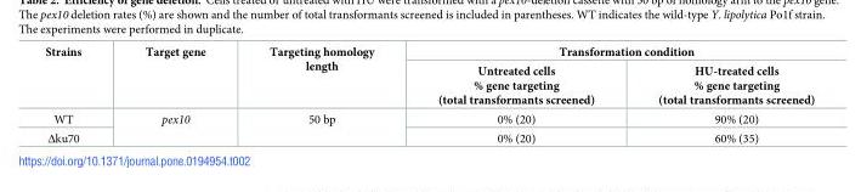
<table><thead><tr><td rowspan="2">Strains</td><td rowspan="2">Target gene</td><td rowspan="2">Targeting homology length</td><td colspan="2">Transformation condition</td></tr><tr><td>Untreated cells % gene targeting (total transformants screened)</td><td>HU-treated cells % gene targeting (total transformants screened)</td></tr></thead><tbody><tr><td>WT</td><td rowspan="2">pex10</td><td rowspan="2">50 bp</td><td>0% (20)</td><td>90% (20)</td></tr><tr><td>Δku70</td><td>0% (20)</td><td>60% (35)</td></tr></tbody></table>